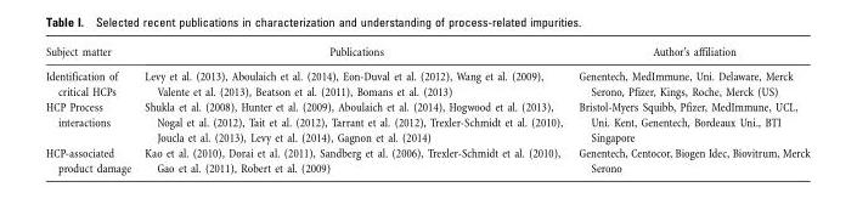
<table><thead><tr><td>Subject matter</td><td>Publications</td><td>Author’s affiliation</td></tr></thead><tbody><tr><td>Identification of critical HCPs</td><td>Levy et al. (2013), Aboulaich et al. (2014), Eon-Duval et al. (2012), Wang et al. (2009), Valente et al. (2013), Beatson et al. (2011), Bomans et al. (2013)</td><td>Genentech, MedImmune, Uni. Delaware, Merck Serono, Pfizer, Kings, Roche, Merck (US)</td></tr><tr><td>HCP Process interactions</td><td>Shukla et al. (2008), Hunter et al. (2009), Aboulaich et al. (2014), Hogwood et al. (2013), Nogal et al. (2012), Tait et al. (2012), Tarrant et al. (2012), Trexler-Schmidt et al. (2010), Joucla et al. (2013), Levy et al. (2014), Gagnon et al. (2014)</td><td>Bristol-Myers Squibb, Pfizer, MedImmune, UCL, Uni. Kent, Genentech, Bordeaux Uni., BTI Singapore</td></tr><tr><td>HCP-associated product damage</td><td>Kao et al. (2010), Dorai et al. (2011), Sandberg et al. (2006), Trexler-Schmidt et al. (2010), Gao et al. (2011), Robert et al. (2009)</td><td>Genentech, Centocor, Biogen Idec, Biovitrum, Merck Serono</td></tr></tbody></table>